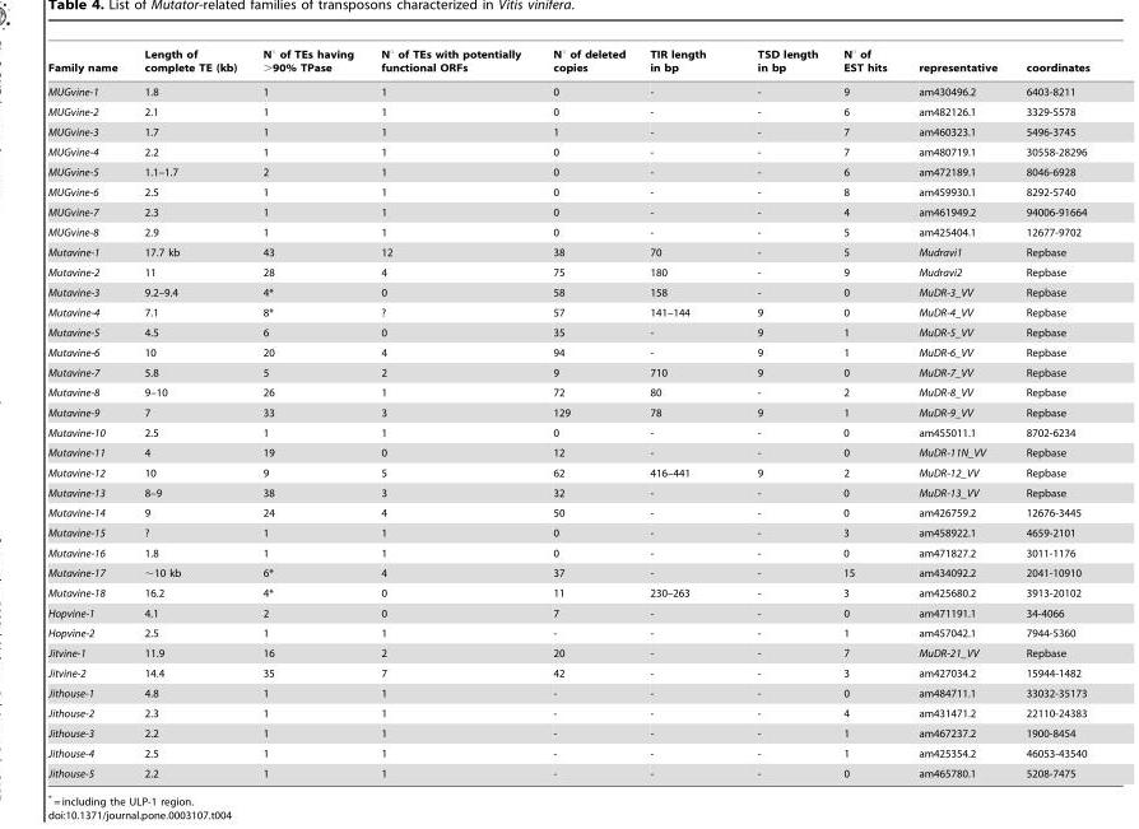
<table><thead><tr><td>Family name</td><td>Length of complete TE (kb)</td><td>N° of TEs having &gt;90% TPase</td><td>N° of TEs with potentially functional ORFs</td><td>N° of deleted copies</td><td>TIR length in bp</td><td>TSD length in bp</td><td>N° of EST hits</td><td>representative</td><td>coordinates</td></tr></thead><tbody><tr><td>MUGvine-1</td><td>1.8</td><td>1</td><td>1</td><td>0</td><td>-</td><td>-</td><td>9</td><td>am430496.2</td><td>6403-8211</td></tr><tr><td>MUGvine-2</td><td>2.1</td><td>1</td><td>1</td><td>0</td><td>-</td><td>-</td><td>6</td><td>am482126.1</td><td>3329-5578</td></tr><tr><td>MUGvine-3</td><td>1.7</td><td>1</td><td>1</td><td>1</td><td>-</td><td>-</td><td>7</td><td>am460323.1</td><td>5496-3745</td></tr><tr><td>MUGvine-4</td><td>2.2</td><td>1</td><td>1</td><td>0</td><td>-</td><td>-</td><td>7</td><td>am480719.1</td><td>30558-28296</td></tr><tr><td>MUGvine-5</td><td>1.1–1.7</td><td>2</td><td>1</td><td>0</td><td>-</td><td>-</td><td>6</td><td>am472189.1</td><td>8046-6928</td></tr><tr><td>MUGvine-6</td><td>2.5</td><td>1</td><td>1</td><td>0</td><td>-</td><td>-</td><td>8</td><td>am459930.1</td><td>8292-5740</td></tr><tr><td>MUGvine-7</td><td>2.3</td><td>1</td><td>1</td><td>0</td><td>-</td><td>-</td><td>4</td><td>am461949.2</td><td>94006-91664</td></tr><tr><td>MUGvine-8</td><td>2.9</td><td>1</td><td>1</td><td>0</td><td>-</td><td>-</td><td>5</td><td>am425404.1</td><td>12677-9702</td></tr><tr><td>Mutavine-1</td><td>17.7 kb</td><td>43</td><td>12</td><td>38</td><td>70</td><td>-</td><td>5</td><td>Mudravi1</td><td>Repbase</td></tr><tr><td>Mutavine-2</td><td>11</td><td>28</td><td>4</td><td>75</td><td>180</td><td>-</td><td>9</td><td>Mudravi2</td><td>Repbase</td></tr><tr><td>Mutavine-3</td><td>9.2–9.4</td><td>4*</td><td>0</td><td>58</td><td>158</td><td>-</td><td>0</td><td>MuDR-3_VV</td><td>Repbase</td></tr><tr><td>Mutavine-4</td><td>7.1</td><td>8*</td><td>?</td><td>57</td><td>141–144</td><td>9</td><td>0</td><td>MuDR-4_VV</td><td>Repbase</td></tr><tr><td>Mutavine-5</td><td>4.5</td><td>6</td><td>0</td><td>35</td><td>-</td><td>9</td><td>1</td><td>MuDR-5_VV</td><td>Repbase</td></tr><tr><td>Mutavine-6</td><td>10</td><td>20</td><td>4</td><td>94</td><td>-</td><td>9</td><td>1</td><td>MuDR-6_VV</td><td>Repbase</td></tr><tr><td>Mutavine-7</td><td>5.8</td><td>5</td><td>2</td><td>9</td><td>710</td><td>9</td><td>0</td><td>MuDR-7_VV</td><td>Repbase</td></tr><tr><td>Mutavine-8</td><td>9–10</td><td>26</td><td>1</td><td>72</td><td>80</td><td>-</td><td>2</td><td>MuDR-8_VV</td><td>Repbase</td></tr><tr><td>Mutavine-9</td><td>7</td><td>33</td><td>3</td><td>129</td><td>78</td><td>9</td><td>1</td><td>MuDR-9_VV</td><td>Repbase</td></tr><tr><td>Mutavine-10</td><td>2.5</td><td>1</td><td>1</td><td>0</td><td>-</td><td>-</td><td>0</td><td>am455011.1</td><td>8702-6234</td></tr><tr><td>Mutavine-11</td><td>4</td><td>19</td><td>0</td><td>12</td><td>-</td><td>-</td><td>0</td><td>MuDR-11N_VV</td><td>Repbase</td></tr><tr><td>Mutavine-12</td><td>10</td><td>9</td><td>5</td><td>62</td><td>416–441</td><td>9</td><td>2</td><td>MuDR-12_VV</td><td>Repbase</td></tr><tr><td>Mutavine-13</td><td>8–9</td><td>38</td><td>3</td><td>32</td><td>-</td><td>-</td><td>0</td><td>MuDR-13_VV</td><td>Repbase</td></tr><tr><td>Mutavine-14</td><td>9</td><td>24</td><td>4</td><td>50</td><td>-</td><td>-</td><td>0</td><td>am426759.2</td><td>12676-3445</td></tr><tr><td>Mutavine-15</td><td>?</td><td>1</td><td>1</td><td>0</td><td>-</td><td>-</td><td>3</td><td>am458922.1</td><td>4659-2101</td></tr><tr><td>Mutavine-16</td><td>1.8</td><td>1</td><td>1</td><td>0</td><td>-</td><td>-</td><td>0</td><td>am471827.2</td><td>3011-1176</td></tr><tr><td>Mutavine-17</td><td>∼10 kb</td><td>6*</td><td>4</td><td>37</td><td>-</td><td>-</td><td>15</td><td>am434092.2</td><td>2041-10910</td></tr><tr><td>Mutavine-18</td><td>16.2</td><td>4*</td><td>0</td><td>11</td><td>230–263</td><td>-</td><td>3</td><td>am425680.2</td><td>3913-20102</td></tr><tr><td>Hopvine-1</td><td>4.1</td><td>2</td><td>0</td><td>7</td><td>-</td><td>-</td><td>0</td><td>am471191.1</td><td>34-4066</td></tr><tr><td>Hopvine-2</td><td>2.5</td><td>1</td><td>1</td><td>-</td><td>-</td><td>-</td><td>1</td><td>am457042.1</td><td>7944-5360</td></tr><tr><td>Jitvine-1</td><td>11.9</td><td>16</td><td>2</td><td>20</td><td>-</td><td>-</td><td>7</td><td>MuDR-21_VV</td><td>Repbase</td></tr><tr><td>Jitvine-2</td><td>14.4</td><td>35</td><td>7</td><td>42</td><td>-</td><td>-</td><td>3</td><td>am427034.2</td><td>15944-1482</td></tr><tr><td>Jithouse-1</td><td>4.8</td><td>1</td><td>1</td><td>-</td><td>-</td><td>-</td><td>0</td><td>am484711.1</td><td>33032-35173</td></tr><tr><td>Jithouse-2</td><td>2.3</td><td>1</td><td>1</td><td>-</td><td>-</td><td>-</td><td>4</td><td>am431471.2</td><td>22110-24383</td></tr><tr><td>Jithouse-3</td><td>2.2</td><td>1</td><td>1</td><td>-</td><td>-</td><td>-</td><td>1</td><td>am467237.2</td><td>1900-8454</td></tr><tr><td>Jithouse-4</td><td>2.5</td><td>1</td><td>1</td><td>-</td><td>-</td><td>-</td><td>1</td><td>am425354.2</td><td>46053-43540</td></tr><tr><td>Jithouse-5</td><td>2.2</td><td>1</td><td>1</td><td>-</td><td>-</td><td>-</td><td>0</td><td>am465780.1</td><td>5208-7475</td></tr></tbody></table>